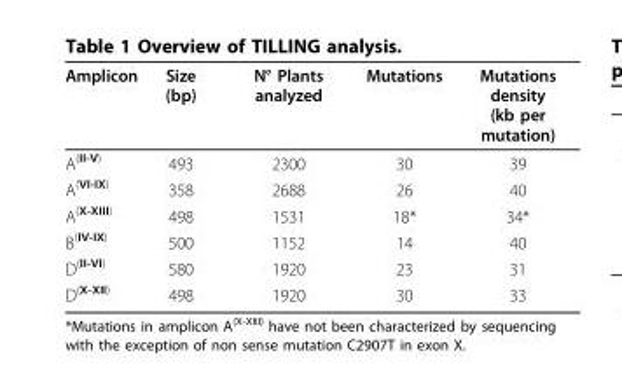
<table><thead><tr><td>Amplicon</td><td>Size (bp)</td><td>N° Plants analyzed</td><td>Mutations</td><td>Mutations density (kb per mutation)</td></tr></thead><tbody><tr><td>A<sup>(II-V)</sup></td><td>493</td><td>2300</td><td>30</td><td>39</td></tr><tr><td>A<sup>(VI-IX)</sup></td><td>358</td><td>2688</td><td>26</td><td>40</td></tr><tr><td>A<sup>(X-XIII)</sup></td><td>498</td><td>1531</td><td>18*</td><td>34*</td></tr><tr><td>B<sup>(IV-IX)</sup></td><td>500</td><td>1152</td><td>14</td><td>40</td></tr><tr><td>D<sup>(II-VI)</sup></td><td>580</td><td>1920</td><td>23</td><td>31</td></tr><tr><td>D<sup>(X-XII)</sup></td><td>498</td><td>1920</td><td>30</td><td>33</td></tr></tbody></table>